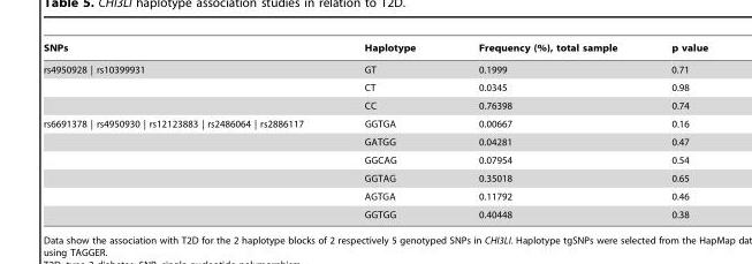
<table><thead><tr><td>SNPs</td><td>Haplotype</td><td>Frequency (%), total sample</td><td>p value</td></tr></thead><tbody><tr><td rowspan="3">rs4950928 | rs10399931</td><td>GT</td><td>0.1999</td><td>0.71</td></tr><tr><td>CT</td><td>0.0345</td><td>0.98</td></tr><tr><td>CC</td><td>0.76398</td><td>0.74</td></tr><tr><td rowspan="6">rs6691378 | rs4950930 | rs12123883 | rs2486064 | rs2886117</td><td>GGTGA</td><td>0.00667</td><td>0.16</td></tr><tr><td>GATGG</td><td>0.04281</td><td>0.47</td></tr><tr><td>GGCAG</td><td>0.07954</td><td>0.54</td></tr><tr><td>GGTAG</td><td>0.35018</td><td>0.65</td></tr><tr><td>AGTGA</td><td>0.11792</td><td>0.46</td></tr><tr><td>GGTGG</td><td>0.40448</td><td>0.38</td></tr></tbody></table>